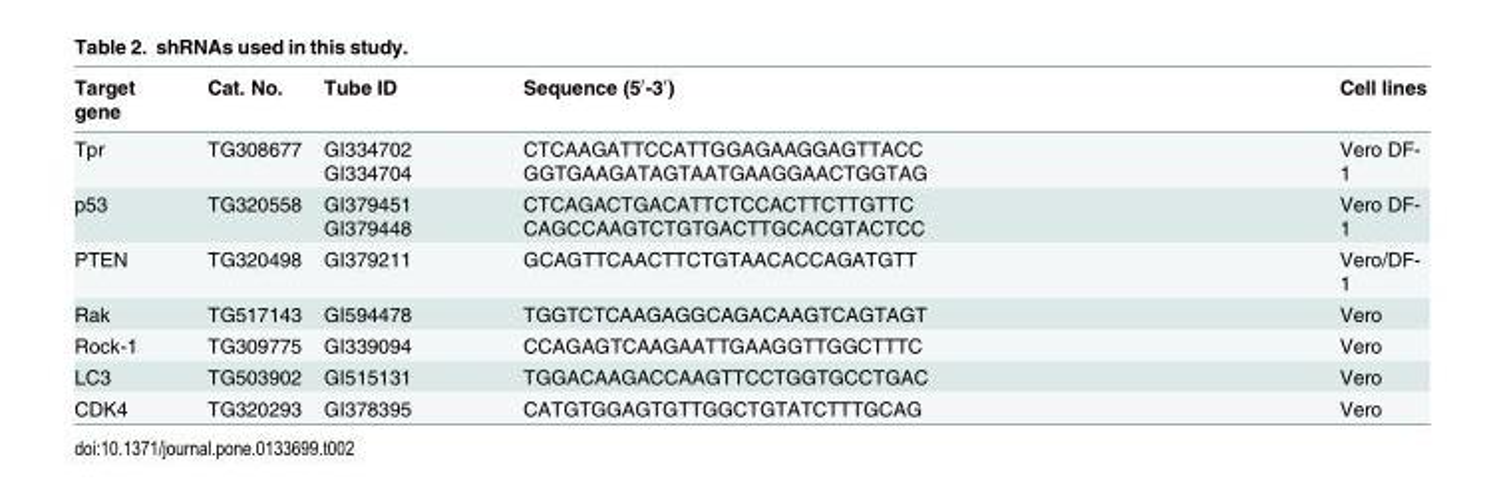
<table><thead><tr><td>Target gene</td><td>Cat. No.</td><td>Tube ID</td><td>Sequence (5′-3′)</td><td>Cell lines</td></tr></thead><tbody><tr><td>Tpr</td><td>TG308677</td><td>GI334702 GI334704</td><td>CTCAAGATTCCATTGGAGAAGGAGTTACC GGTGAAGATAGTAATGAAGGAACTGGTAG</td><td>Vero DF- 1</td></tr><tr><td>p53</td><td>TG320558</td><td>GI379451 GI379448</td><td>CTCAGACTGACATTCTCCACTTCTTGTTC CAGCCAAGTCTGTGACTTGCACGTACTCC</td><td>Vero DF- 1</td></tr><tr><td>PTEN</td><td>TG320498</td><td>GI379211</td><td>GCAGTTCAACTTCTGTAACACCAGATGTT</td><td>Vero/DF- 1</td></tr><tr><td>Rak</td><td>TG517143</td><td>GI594478</td><td>TGGTCTCAAGAGGCAGACAAGTCAGTAGT</td><td>Vero</td></tr><tr><td>Rock-1</td><td>TG309775</td><td>GI339094</td><td>CCAGAGTCAAGAATTGAAGGTTGGCTTTC</td><td>Vero</td></tr><tr><td>LC3</td><td>TG503902</td><td>GI515131</td><td>TGGACAAGACCAAGTTCCTGGTGCCTGAC</td><td>Vero</td></tr><tr><td>CDK4</td><td>TG320293</td><td>GI378395</td><td>CATGTGGAGTGTTGGCTGTATCTTTGCAG</td><td>Vero</td></tr></tbody></table>